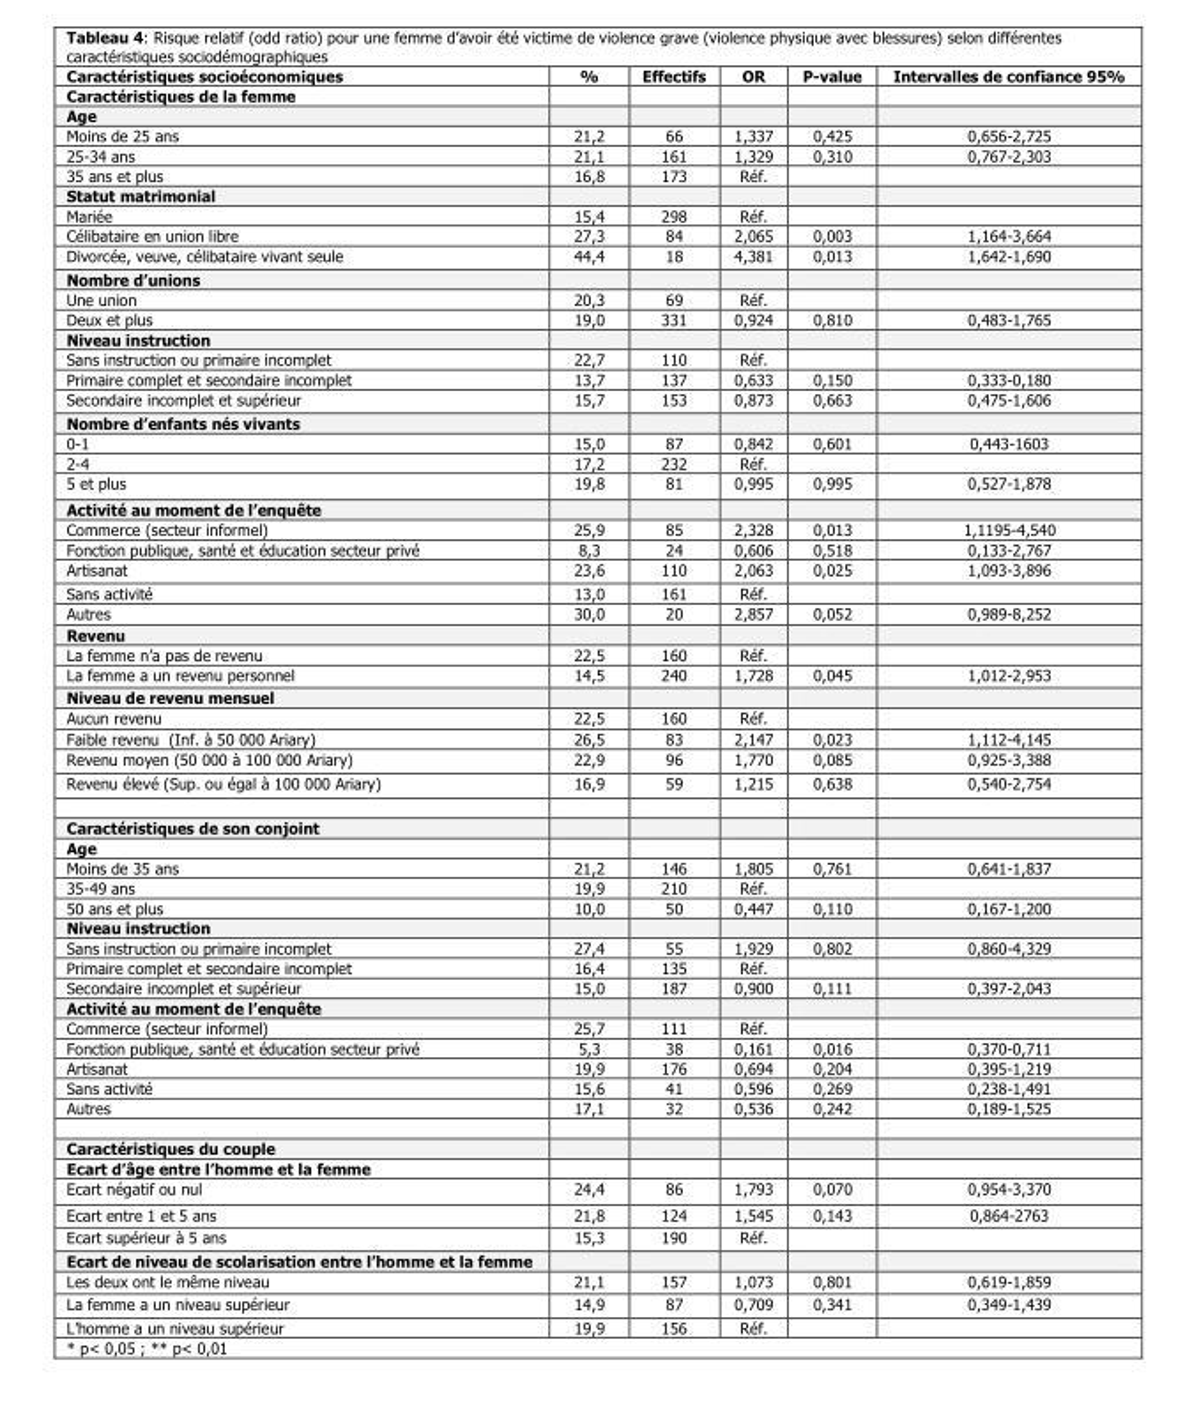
<table><thead><tr><td>Caractéristiques socioéconomiques</td><td>%</td><td>Effectifs</td><td>OR</td><td>P-value</td><td>Intervalles de confiance 95%</td></tr></thead><tbody><tr><td colspan="6">Caractéristiques de la femme</td></tr><tr><td colspan="6">Age</td></tr><tr><td>Moins de 25 ans</td><td>21,2</td><td>66</td><td>1,337</td><td>0,425</td><td>0,656-2,725</td></tr><tr><td>25-34 ans</td><td>21,1</td><td>161</td><td>1,329</td><td>0,310</td><td>0,767-2,303</td></tr><tr><td>35 ans et plus</td><td>16,8</td><td>173</td><td>Réf.</td><td></td><td></td></tr><tr><td colspan="6">Statut matrimonial</td></tr><tr><td>Mariée</td><td>15,4</td><td>298</td><td>Réf.</td><td></td><td></td></tr><tr><td>Célibataire en union libre</td><td>27,3</td><td>84</td><td>2,065</td><td>0,003</td><td>1,164-3,664</td></tr><tr><td>Divorcée, veuve, célibataire vivant seule</td><td>44,4</td><td>18</td><td>4,381</td><td>0,013</td><td>1,642-1,690</td></tr><tr><td colspan="6">Nombre d’unions</td></tr><tr><td>Une union</td><td>20,3</td><td>69</td><td>Réf.</td><td></td><td></td></tr><tr><td>Deux et plus</td><td>19,0</td><td>331</td><td>0,924</td><td>0,810</td><td>0,483-1,765</td></tr><tr><td colspan="6">Niveau instruction</td></tr><tr><td>Sans instruction ou primaire incomplet</td><td>22,7</td><td>110</td><td>Réf.</td><td></td><td></td></tr><tr><td>Primaire complet et secondaire incomplet</td><td>13,7</td><td>137</td><td>0,633</td><td>0,150</td><td>0,333-0,180</td></tr><tr><td>Secondaire incomplet et supérieur</td><td>15,7</td><td>153</td><td>0,873</td><td>0,663</td><td>0,475-1,606</td></tr><tr><td colspan="6">Nombre d’enfants nés vivants</td></tr><tr><td>0-1</td><td>15,0</td><td>87</td><td>0,842</td><td>0,601</td><td>0,443-1603</td></tr><tr><td>2-4</td><td>17,2</td><td>232</td><td>Réf.</td><td></td><td></td></tr><tr><td>5 et plus</td><td>19,8</td><td>81</td><td>0,995</td><td>0,995</td><td>0,527-1,878</td></tr><tr><td colspan="6">Activité au moment de l’enquête</td></tr><tr><td>Commerce (secteur informel)</td><td>25,9</td><td>85</td><td>2,328</td><td>0,013</td><td>1,1195-4,540</td></tr><tr><td>Fonction publique, santé et éducation secteur privé</td><td>8,3</td><td>24</td><td>0,606</td><td>0,518</td><td>0,133-2,767</td></tr><tr><td>Artisanat</td><td>23,6</td><td>110</td><td>2,063</td><td>0,025</td><td>1,093-3,896</td></tr><tr><td>Sans activité</td><td>13,0</td><td>161</td><td>Réf.</td><td></td><td></td></tr><tr><td>Autres</td><td>30,0</td><td>20</td><td>2,857</td><td>0,052</td><td>0,989-8,252</td></tr><tr><td colspan="6">Revenu</td></tr><tr><td>La femme n’a pas de revenu</td><td>22,5</td><td>160</td><td>Réf.</td><td></td><td></td></tr><tr><td>La femme a un revenu personnel</td><td>14,5</td><td>240</td><td>1,728</td><td>0,045</td><td>1,012-2,953</td></tr><tr><td colspan="6">Niveau de revenu mensuel</td></tr><tr><td>Aucun revenu</td><td>22,5</td><td>160</td><td>Réf.</td><td></td><td></td></tr><tr><td>Faible revenu (Inf. à 50 000 Ariary)</td><td>26,5</td><td>83</td><td>2,147</td><td>0,023</td><td>1,112-4,145</td></tr><tr><td>Revenu moyen (50 000 à 100 000 Ariary)</td><td>22,9</td><td>96</td><td>1,770</td><td>0,085</td><td>0,925-3,388</td></tr><tr><td>Revenu élevé (Sup. ou égal à 100 000 Ariary)</td><td>16,9</td><td>59</td><td>1,215</td><td>0,638</td><td>0,540-2,754</td></tr><tr><td colspan="6">Caractéristiques de son conjoint</td></tr><tr><td colspan="6">Age</td></tr><tr><td>Moins de 35 ans</td><td>21,2</td><td>146</td><td>1,805</td><td>0,761</td><td>0,641-1,837</td></tr><tr><td>35-49 ans</td><td>19,9</td><td>210</td><td>Réf.</td><td></td><td></td></tr><tr><td>50 ans et plus</td><td>10,0</td><td>50</td><td>0,447</td><td>0,110</td><td>0,167-1,200</td></tr><tr><td colspan="6">Niveau instruction</td></tr><tr><td>Sans instruction ou primaire incomplet</td><td>27,4</td><td>55</td><td>1,929</td><td>0,802</td><td>0,860-4,329</td></tr><tr><td>Primaire complet et secondaire incomplet</td><td>16,4</td><td>135</td><td>Réf.</td><td></td><td></td></tr><tr><td>Secondaire incomplet et supérieur</td><td>15,0</td><td>187</td><td>0,900</td><td>0,111</td><td>0,397-2,043</td></tr><tr><td colspan="6">Activité au moment de l’enquête</td></tr><tr><td>Commerce (secteur informel)</td><td>25,7</td><td>111</td><td>Réf.</td><td></td><td></td></tr><tr><td>Fonction publique, santé et éducation secteur privé</td><td>5,3</td><td>38</td><td>0,161</td><td>0,016</td><td>0,370-0,711</td></tr><tr><td>Artisanat</td><td>19,9</td><td>176</td><td>0,694</td><td>0,204</td><td>0,395-1,219</td></tr><tr><td>Sans activité</td><td>15,6</td><td>41</td><td>0,596</td><td>0,269</td><td>0,238-1,491</td></tr><tr><td>Autres</td><td>17,1</td><td>32</td><td>0,536</td><td>0,242</td><td>0,189-1,525</td></tr><tr><td colspan="6">Caractéristiques du couple</td></tr><tr><td colspan="6">Ecart d’âge entre l’homme et la femme</td></tr><tr><td>Ecart négatif ou nul</td><td>24,4</td><td>86</td><td>1,793</td><td>0,070</td><td>0,954-3,370</td></tr><tr><td>Ecart entre 1 et 5 ans</td><td>21,8</td><td>124</td><td>1,545</td><td>0,143</td><td>0,864-2763</td></tr><tr><td>Ecart supérieur à 5 ans</td><td>15,3</td><td>190</td><td>Réf.</td><td></td><td></td></tr><tr><td colspan="6">Ecart de niveau de scolarisation entre l’homme et la femme</td></tr><tr><td>Les deux ont le même niveau</td><td>21,1</td><td>157</td><td>1,073</td><td>0,801</td><td>0,619-1,859</td></tr><tr><td>La femme a un niveau supérieur</td><td>14,9</td><td>87</td><td>0,709</td><td>0,341</td><td>0,349-1,439</td></tr><tr><td>L’homme a un niveau supérieur</td><td>19,9</td><td>156</td><td>Réf.</td><td></td><td></td></tr></tbody></table>